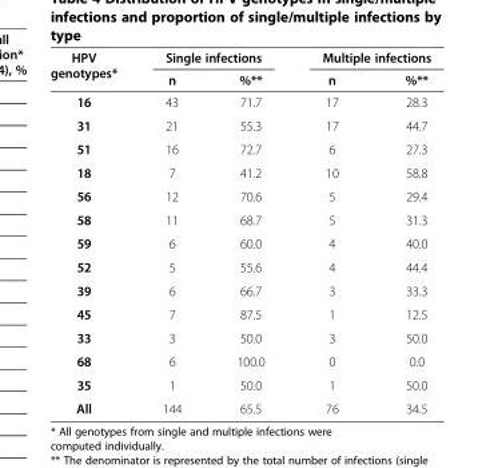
<table><thead><tr><td rowspan="2">HPV genotypes*</td><td colspan="2">Single infections</td><td colspan="2">Multiple infections</td></tr><tr><td>n</td><td>%**</td><td>n</td><td>%**</td></tr></thead><tbody><tr><td>16</td><td>43</td><td>71.7</td><td>17</td><td>28.3</td></tr><tr><td>31</td><td>21</td><td>55.3</td><td>17</td><td>44.7</td></tr><tr><td>51</td><td>16</td><td>72.7</td><td>6</td><td>27.3</td></tr><tr><td>18</td><td>7</td><td>41.2</td><td>10</td><td>58.8</td></tr><tr><td>56</td><td>12</td><td>70.6</td><td>5</td><td>29.4</td></tr><tr><td>58</td><td>11</td><td>68.7</td><td>5</td><td>31.3</td></tr><tr><td>59</td><td>6</td><td>60.0</td><td>4</td><td>40.0</td></tr><tr><td>52</td><td>5</td><td>55.6</td><td>4</td><td>44.4</td></tr><tr><td>39</td><td>6</td><td>66.7</td><td>3</td><td>33.3</td></tr><tr><td>45</td><td>7</td><td>87.5</td><td>1</td><td>12.5</td></tr><tr><td>33</td><td>3</td><td>50.0</td><td>3</td><td>50.0</td></tr><tr><td>68</td><td>6</td><td>100.0</td><td>0</td><td>0.0</td></tr><tr><td>35</td><td>1</td><td>50.0</td><td>1</td><td>50.0</td></tr><tr><td>All</td><td>144</td><td>65.5</td><td>76</td><td>34.5</td></tr></tbody></table>